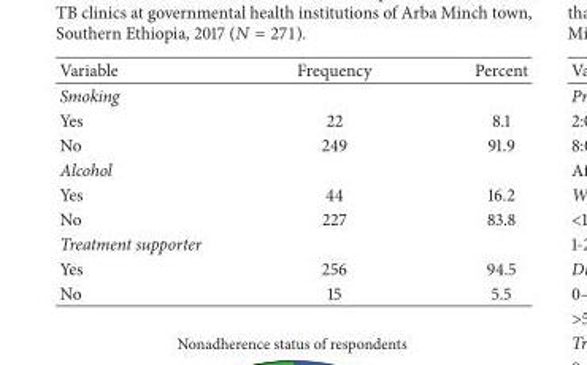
<table><thead><tr><td>Variable</td><td>Frequency</td><td>Percent</td></tr></thead><tbody><tr><td colspan="3">Smoking</td></tr><tr><td>Yes</td><td>22</td><td>8.1</td></tr><tr><td>No</td><td>249</td><td>91.9</td></tr><tr><td colspan="3">Alcohol</td></tr><tr><td>Yes</td><td>44</td><td>16.2</td></tr><tr><td>No</td><td>227</td><td>83.8</td></tr><tr><td colspan="3">Treatment supporter</td></tr><tr><td>Yes</td><td>256</td><td>94.5</td></tr><tr><td>No</td><td>15</td><td>5.5</td></tr></tbody></table>